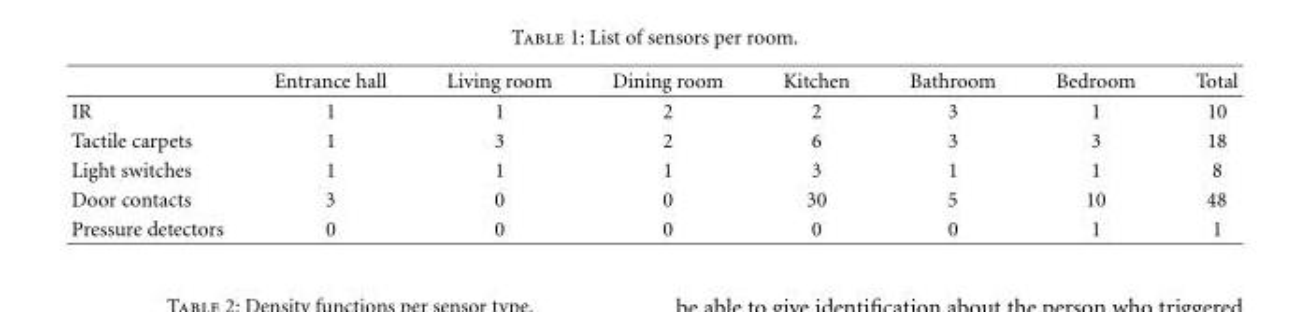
<table><thead><tr><td></td><td>Entrance hall</td><td>Living room</td><td>Dining room</td><td>Kitchen</td><td>Bathroom</td><td>Bedroom</td><td>Total</td></tr></thead><tbody><tr><td>IR</td><td>1</td><td>1</td><td>2</td><td>2</td><td>3</td><td>1</td><td>10</td></tr><tr><td>Tactile carpets</td><td>1</td><td>3</td><td>2</td><td>6</td><td>3</td><td>3</td><td>18</td></tr><tr><td>Light switches</td><td>1</td><td>1</td><td>1</td><td>3</td><td>1</td><td>1</td><td>8</td></tr><tr><td>Door contacts</td><td>3</td><td>0</td><td>0</td><td>30</td><td>5</td><td>10</td><td>48</td></tr><tr><td>Pressure detectors</td><td>0</td><td>0</td><td>0</td><td>0</td><td>0</td><td>1</td><td>1</td></tr></tbody></table>